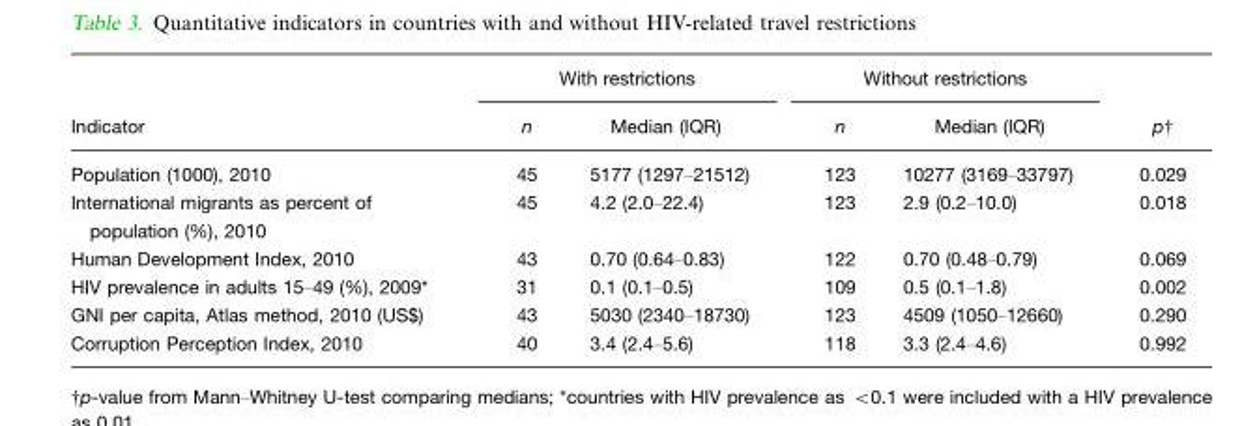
<table><thead><tr><td rowspan="2">Indicator</td><td colspan="2">With restrictions</td><td colspan="2">Without restrictions</td><td rowspan="2">p†</td></tr><tr><td>n</td><td>Median (IQR)</td><td>n</td><td>Median (IQR)</td></tr></thead><tbody><tr><td>Population (1000), 2010</td><td>45</td><td>5177 (1297–21512)</td><td>123</td><td>10277 (3169–33797)</td><td>0.029</td></tr><tr><td>International migrants as percent of population (%), 2010</td><td>45</td><td>4.2 (2.0–22.4)</td><td>123</td><td>2.9 (0.2–10.0)</td><td>0.018</td></tr><tr><td>Human Development Index, 2010</td><td>43</td><td>0.70 (0.64–0.83)</td><td>122</td><td>0.70 (0.48–0.79)</td><td>0.069</td></tr><tr><td>HIV prevalence in adults 15–49 (%), 2009*</td><td>31</td><td>0.1 (0.1–0.5)</td><td>109</td><td>0.5 (0.1–1.8)</td><td>0.002</td></tr><tr><td>GNI per capita, Atlas method, 2010 (US$)</td><td>43</td><td>5030 (2340–18730)</td><td>123</td><td>4509 (1050–12660)</td><td>0.290</td></tr><tr><td>Corruption Perception Index, 2010</td><td>40</td><td>3.4 (2.4–5.6)</td><td>118</td><td>3.3 (2.4–4.6)</td><td>0.992</td></tr></tbody></table>